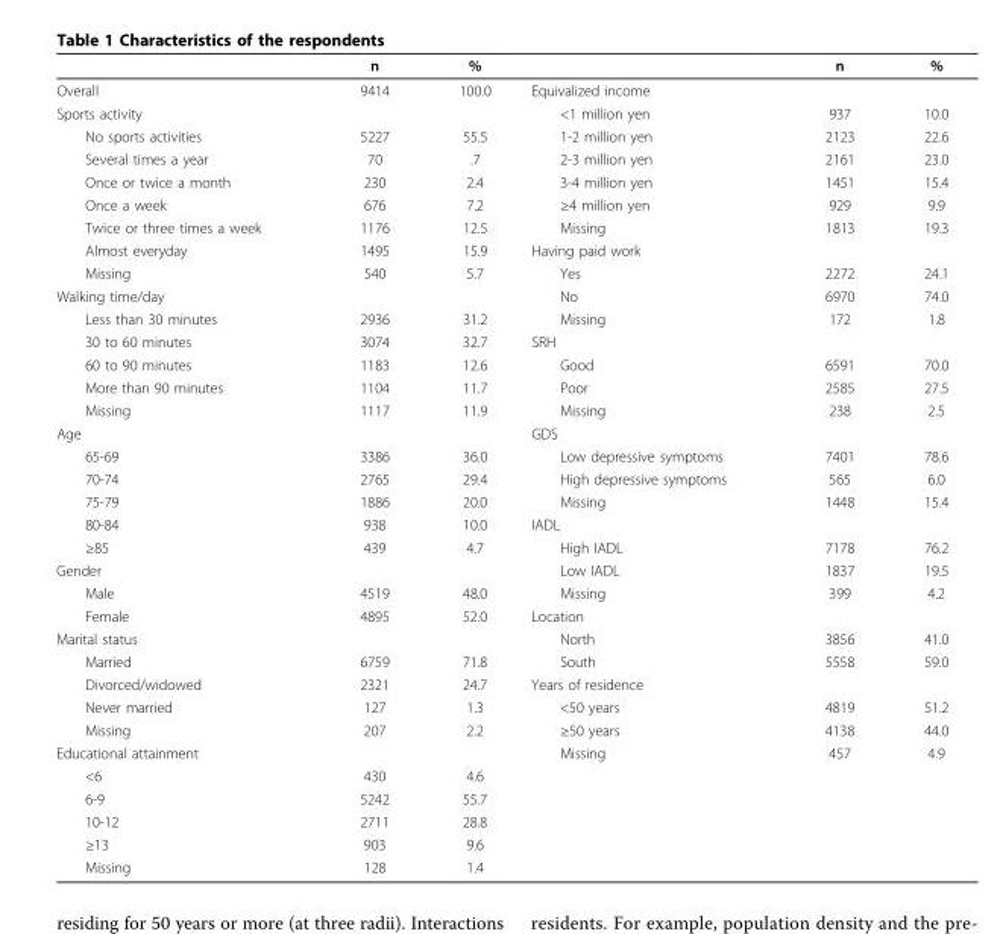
<table><thead><tr><td></td><td>n</td><td>%</td><td></td><td>n</td><td>%</td></tr></thead><tbody><tr><td>Overall</td><td>9414</td><td>100.0</td><td>Equivalized income</td><td></td><td></td></tr><tr><td>Sports activity</td><td></td><td></td><td>&lt;1 million yen</td><td>937</td><td>10.0</td></tr><tr><td>No sports activities</td><td>5227</td><td>55.5</td><td>1-2 million yen</td><td>2123</td><td>22.6</td></tr><tr><td>Several times a year</td><td>70</td><td>.7</td><td>2-3 million yen</td><td>2161</td><td>23.0</td></tr><tr><td>Once or twice a month</td><td>230</td><td>2.4</td><td>3-4 million yen</td><td>1451</td><td>15.4</td></tr><tr><td>Once a week</td><td>676</td><td>7.2</td><td>≥4 million yen</td><td>929</td><td>9.9</td></tr><tr><td>Twice or three times a week</td><td>1176</td><td>12.5</td><td>Missing</td><td>1813</td><td>19.3</td></tr><tr><td>Almost everyday</td><td>1495</td><td>15.9</td><td>Having paid work</td><td></td><td></td></tr><tr><td>Missing</td><td>540</td><td>5.7</td><td>Yes</td><td>2272</td><td>24.1</td></tr><tr><td>Walking time/day</td><td></td><td></td><td>No</td><td>6970</td><td>74.0</td></tr><tr><td>Less than 30 minutes</td><td>2936</td><td>31.2</td><td>Missing</td><td>172</td><td>1.8</td></tr><tr><td>30 to 60 minutes</td><td>3074</td><td>32.7</td><td>SRH</td><td></td><td></td></tr><tr><td>60 to 90 minutes</td><td>1183</td><td>12.6</td><td>Good</td><td>6591</td><td>70.0</td></tr><tr><td>More than 90 minutes</td><td>1104</td><td>11.7</td><td>Poor</td><td>2585</td><td>27.5</td></tr><tr><td>Missing</td><td>1117</td><td>11.9</td><td>Missing</td><td>238</td><td>2.5</td></tr><tr><td>Age</td><td></td><td></td><td>GDS</td><td></td><td></td></tr><tr><td>65-69</td><td>3386</td><td>36.0</td><td>Low depressive symptoms</td><td>7401</td><td>78.6</td></tr><tr><td>70-74</td><td>2765</td><td>29.4</td><td>High depressive symptoms</td><td>565</td><td>6.0</td></tr><tr><td>75-79</td><td>1886</td><td>20.0</td><td>Missing</td><td>1448</td><td>15.4</td></tr><tr><td>80-84</td><td>938</td><td>10.0</td><td>IADL</td><td></td><td></td></tr><tr><td>≥85</td><td>439</td><td>4.7</td><td>High IADL</td><td>7178</td><td>76.2</td></tr><tr><td>Gender</td><td></td><td></td><td>Low IADL</td><td>1837</td><td>19.5</td></tr><tr><td>Male</td><td>4519</td><td>48.0</td><td>Missing</td><td>399</td><td>4.2</td></tr><tr><td>Female</td><td>4895</td><td>52.0</td><td>Location</td><td></td><td></td></tr><tr><td>Marital status</td><td></td><td></td><td>North</td><td>3856</td><td>41.0</td></tr><tr><td>Married</td><td>6759</td><td>71.8</td><td>South</td><td>5558</td><td>59.0</td></tr><tr><td>Divorced/widowed</td><td>2321</td><td>24.7</td><td>Years of residence</td><td></td><td></td></tr><tr><td>Never married</td><td>127</td><td>1.3</td><td>&lt;50 years</td><td>4819</td><td>51.2</td></tr><tr><td>Missing</td><td>207</td><td>2.2</td><td>≥50 years</td><td>4138</td><td>44.0</td></tr><tr><td>Educational attainment</td><td></td><td></td><td>Missing</td><td>457</td><td>4.9</td></tr><tr><td>&lt;6</td><td>430</td><td>4.6</td><td></td><td></td><td></td></tr><tr><td>6-9</td><td>5242</td><td>55.7</td><td></td><td></td><td></td></tr><tr><td>10-12</td><td>2711</td><td>28.8</td><td></td><td></td><td></td></tr><tr><td>≥13</td><td>903</td><td>9.6</td><td></td><td></td><td></td></tr><tr><td>Missing</td><td>128</td><td>1.4</td><td></td><td></td><td></td></tr></tbody></table>